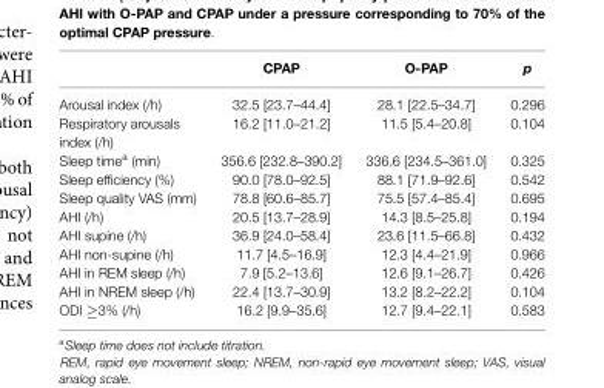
<table><thead><tr><td></td><td>CPAP</td><td>O-PAP</td><td>p</td></tr></thead><tbody><tr><td>Arousal index (/h)</td><td>32.5 [23.7–44.4]</td><td>28.1 [22.5–34.7]</td><td>0.296</td></tr><tr><td>Respiratory arousals index (/h)</td><td>16.2 [11.0–21.2]</td><td>11.5 [5.4–20.8]</td><td>0.104</td></tr><tr><td>Sleep time<sup>a</sup> (min)</td><td>356.6 [232.8–390.2]</td><td>336.6 [234.5–361.0]</td><td>0.325</td></tr><tr><td>Sleep efficiency (%)</td><td>90.0 [78.0–92.5]</td><td>88.1 [71.9–92.6]</td><td>0.542</td></tr><tr><td>Sleep quality VAS (mm)</td><td>78.8 [60.6–85.7]</td><td>75.5 [57.4–85.4]</td><td>0.695</td></tr><tr><td>AHI (/h)</td><td>20.5 [13.7–28.9]</td><td>14.3 [8.5–25.8]</td><td>0.194</td></tr><tr><td>AHI supine (/h)</td><td>36.9 [24.0–58.4]</td><td>23.6 [11.5–66.8]</td><td>0.432</td></tr><tr><td>AHI non-supine (/h)</td><td>11.7 [4.5–16.9]</td><td>12.3 [4.4–21.9]</td><td>0.966</td></tr><tr><td>AHI in REM sleep (/h)</td><td>7.9 [5.2–13.6]</td><td>12.6 [9.1–26.7]</td><td>0.426</td></tr><tr><td>AHI in NREM sleep (/h)</td><td>22.4 [13.7–30.9]</td><td>13.2 [8.2–22.2]</td><td>0.104</td></tr><tr><td>ODI ≥3% (/h)</td><td>16.2 [9.9–35.6]</td><td>12.7 [9.4–22.1]</td><td>0.583</td></tr></tbody></table>